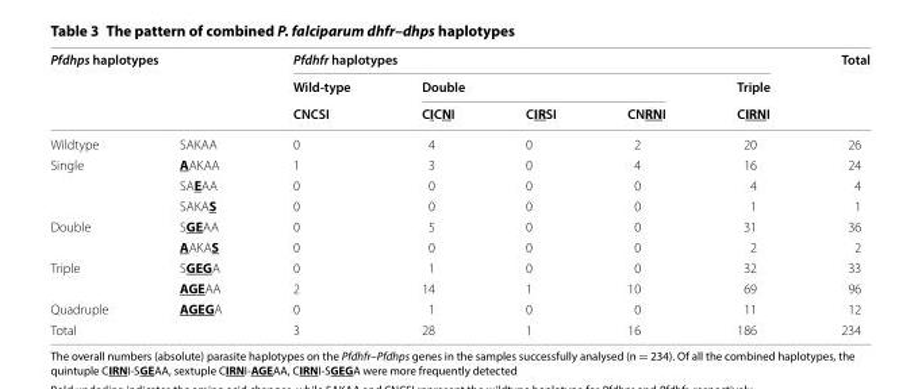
<table><thead><tr><td rowspan="3" colspan="2">Pfdhps haplotypes</td><td colspan="5">Pfdhfr haplotypes</td><td rowspan="4">Total 26</td></tr><tr><td rowspan="3">Wild-type CNCSI 0</td><td colspan="3">Double</td><td rowspan="3">Triple CIRNI 20</td></tr><tr><td rowspan="2">CICNI 4</td><td rowspan="2">CIRSI 0</td><td rowspan="2">CNRNI 2</td></tr><tr><td>Wildtype</td><td>SAKAA</td></tr></thead><tbody><tr><td rowspan="3">Single</td><td>AAKAA</td><td>1</td><td>3</td><td>0</td><td>4</td><td>16</td><td>24</td></tr><tr><td>SAEAA</td><td>0</td><td>0</td><td>0</td><td>0</td><td>4</td><td>4</td></tr><tr><td>SAKAS</td><td>0</td><td>0</td><td>0</td><td>0</td><td>1</td><td>1</td></tr><tr><td rowspan="2">Double</td><td>SGEAA</td><td>0</td><td>5</td><td>0</td><td>0</td><td>31</td><td>36</td></tr><tr><td>AAKAS</td><td>0</td><td>0</td><td>0</td><td>0</td><td>2</td><td>2</td></tr><tr><td rowspan="2">Triple</td><td>SGEGA</td><td>0</td><td>1</td><td>0</td><td>0</td><td>32</td><td>33</td></tr><tr><td>AGEAA</td><td>2</td><td>14</td><td>1</td><td>10</td><td>69</td><td>96</td></tr><tr><td>Quadruple</td><td>AGEGA</td><td>0</td><td>1</td><td>0</td><td>0</td><td>11</td><td>12</td></tr><tr><td>Total</td><td></td><td>3</td><td>28</td><td>1</td><td>16</td><td>186</td><td>234</td></tr></tbody></table>